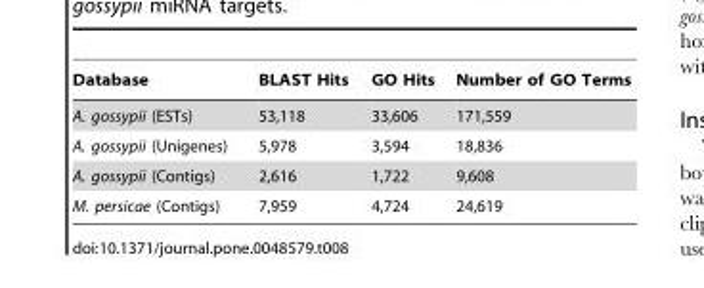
<table><thead><tr><td>Database</td><td>BLAST Hits</td><td>GO Hits</td><td>Number of GO Terms</td></tr></thead><tbody><tr><td>A. gossypii (ESTs)</td><td>53,118</td><td>33,606</td><td>171,559</td></tr><tr><td>A. gossypii (Unigenes)</td><td>5,978</td><td>3,594</td><td>18,836</td></tr><tr><td>A. gossypii (Contigs)</td><td>2,616</td><td>1,722</td><td>9,608</td></tr><tr><td>M. persicae (Contigs)</td><td>7,959</td><td>4,724</td><td>24,619</td></tr></tbody></table>